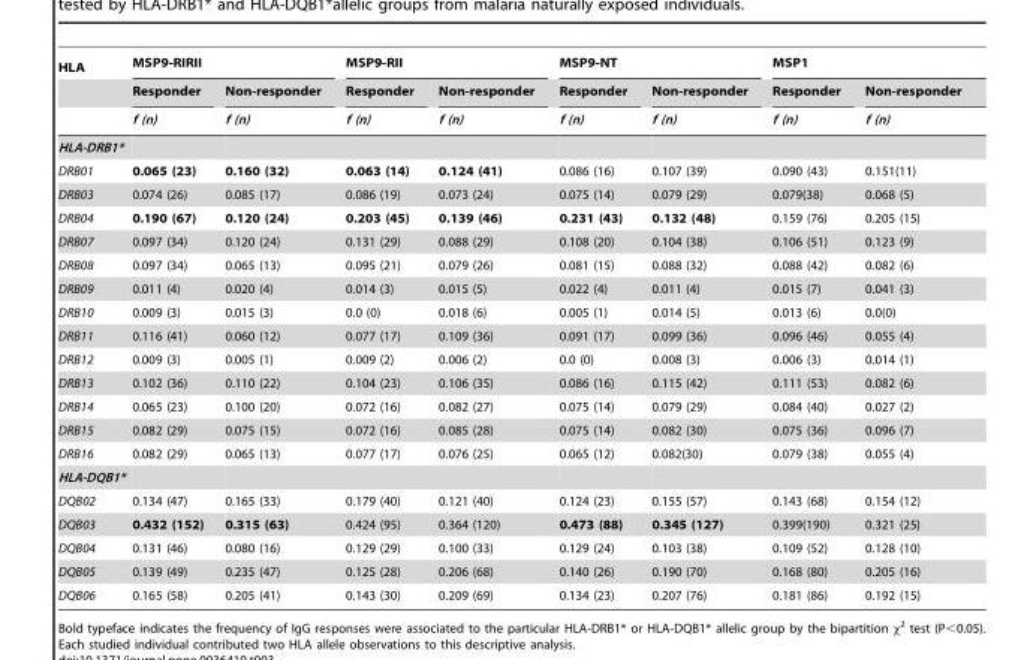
<table><thead><tr><td rowspan="3">HLA</td><td colspan="2">MSP9-RIRII</td><td colspan="2">MSP9-RII</td><td colspan="2">MSP9-NT</td><td colspan="2">MSP1</td></tr><tr><td rowspan="2">Responder f (n)</td><td rowspan="2">Non-responder f (n)</td><td rowspan="2">Responder f (n)</td><td rowspan="2">Non-responder f (n)</td><td rowspan="2">Responder f (n)</td><td rowspan="2">Non-responder f (n)</td><td rowspan="2">Responder f (n)</td><td rowspan="2">Non-responder f (n)</td></tr><tr></tr></thead><tbody><tr><td colspan="9">HLA-DRB1*</td></tr><tr><td>DRB01</td><td>0.065 (23)</td><td>0.160 (32)</td><td>0.063 (14)</td><td>0.124 (41)</td><td>0.086 (16)</td><td>0.107 (39)</td><td>0.090 (43)</td><td>0.151(11)</td></tr><tr><td>DRB03</td><td>0.074 (26)</td><td>0.085 (17)</td><td>0.086 (19)</td><td>0.073 (24)</td><td>0.075 (14)</td><td>0.079 (29)</td><td>0.079(38)</td><td>0.068 (5)</td></tr><tr><td>DRB04</td><td>0.190 (67)</td><td>0.120 (24)</td><td>0.203 (45)</td><td>0.139 (46)</td><td>0.231 (43)</td><td>0.132 (48)</td><td>0.159 (76)</td><td>0.205 (15)</td></tr><tr><td>DRB07</td><td>0.097 (34)</td><td>0.120 (24)</td><td>0.131 (29)</td><td>0.088 (29)</td><td>0.108 (20)</td><td>0.104 (38)</td><td>0.106 (51)</td><td>0.123 (9)</td></tr><tr><td>DRB08</td><td>0.097 (34)</td><td>0.065 (13)</td><td>0.095 (21)</td><td>0.079 (26)</td><td>0.081 (15)</td><td>0.088 (32)</td><td>0.088 (42)</td><td>0.082 (6)</td></tr><tr><td>DRB09</td><td>0.011 (4)</td><td>0.020 (4)</td><td>0.014 (3)</td><td>0.015 (5)</td><td>0.022 (4)</td><td>0.011 (4)</td><td>0.015 (7)</td><td>0.041 (3)</td></tr><tr><td>DRB10</td><td>0.009 (3)</td><td>0.015 (3)</td><td>0.0 (0)</td><td>0.018 (6)</td><td>0.005 (1)</td><td>0.014 (5)</td><td>0.013 (6)</td><td>0.0(0)</td></tr><tr><td>DRB11</td><td>0.116 (41)</td><td>0.060 (12)</td><td>0.077 (17)</td><td>0.109 (36)</td><td>0.091 (17)</td><td>0.099 (36)</td><td>0.096 (46)</td><td>0.055 (4)</td></tr><tr><td>DRB12</td><td>0.009 (3)</td><td>0.005 (1)</td><td>0.009 (2)</td><td>0.006 (2)</td><td>0.0 (0)</td><td>0.008 (3)</td><td>0.006 (3)</td><td>0.014 (1)</td></tr><tr><td>DRB13</td><td>0.102 (36)</td><td>0.110 (22)</td><td>0.104 (23)</td><td>0.106 (35)</td><td>0.086 (16)</td><td>0.115 (42)</td><td>0.111 (53)</td><td>0.082 (6)</td></tr><tr><td>DRB14</td><td>0.065 (23)</td><td>0.100 (20)</td><td>0.072 (16)</td><td>0.082 (27)</td><td>0.075 (14)</td><td>0.079 (29)</td><td>0.084 (40)</td><td>0.027 (2)</td></tr><tr><td>DRB15</td><td>0.082 (29)</td><td>0.075 (15)</td><td>0.072 (16)</td><td>0.085 (28)</td><td>0.075 (14)</td><td>0.082 (30)</td><td>0.075 (36)</td><td>0.096 (7)</td></tr><tr><td>DRB16</td><td>0.082 (29)</td><td>0.065 (13)</td><td>0.077 (17)</td><td>0.076 (25)</td><td>0.065 (12)</td><td>0.082(30)</td><td>0.079 (38)</td><td>0.055 (4)</td></tr><tr><td colspan="9">HLA-DQB1*</td></tr><tr><td>DQB02</td><td>0.134 (47)</td><td>0.165 (33)</td><td>0.179 (40)</td><td>0.121 (40)</td><td>0.124 (23)</td><td>0.155 (57)</td><td>0.143 (68)</td><td>0.154 (12)</td></tr><tr><td>DQB03</td><td>0.432 (152)</td><td>0.315 (63)</td><td>0.424 (95)</td><td>0.364 (120)</td><td>0.473 (88)</td><td>0.345 (127)</td><td>0.399(190)</td><td>0.321 (25)</td></tr><tr><td>DQB04</td><td>0.131 (46)</td><td>0.080 (16)</td><td>0.129 (29)</td><td>0.100 (33)</td><td>0.129 (24)</td><td>0.103 (38)</td><td>0.109 (52)</td><td>0.128 (10)</td></tr><tr><td>DQB05</td><td>0.139 (49)</td><td>0.235 (47)</td><td>0.125 (28)</td><td>0.206 (68)</td><td>0.140 (26)</td><td>0.190 (70)</td><td>0.168 (80)</td><td>0.205 (16)</td></tr><tr><td>DQB06</td><td>0.165 (58)</td><td>0.205 (41)</td><td>0.143 (30)</td><td>0.209 (69)</td><td>0.134 (23)</td><td>0.207 (76)</td><td>0.181 (86)</td><td>0.192 (15)</td></tr></tbody></table>